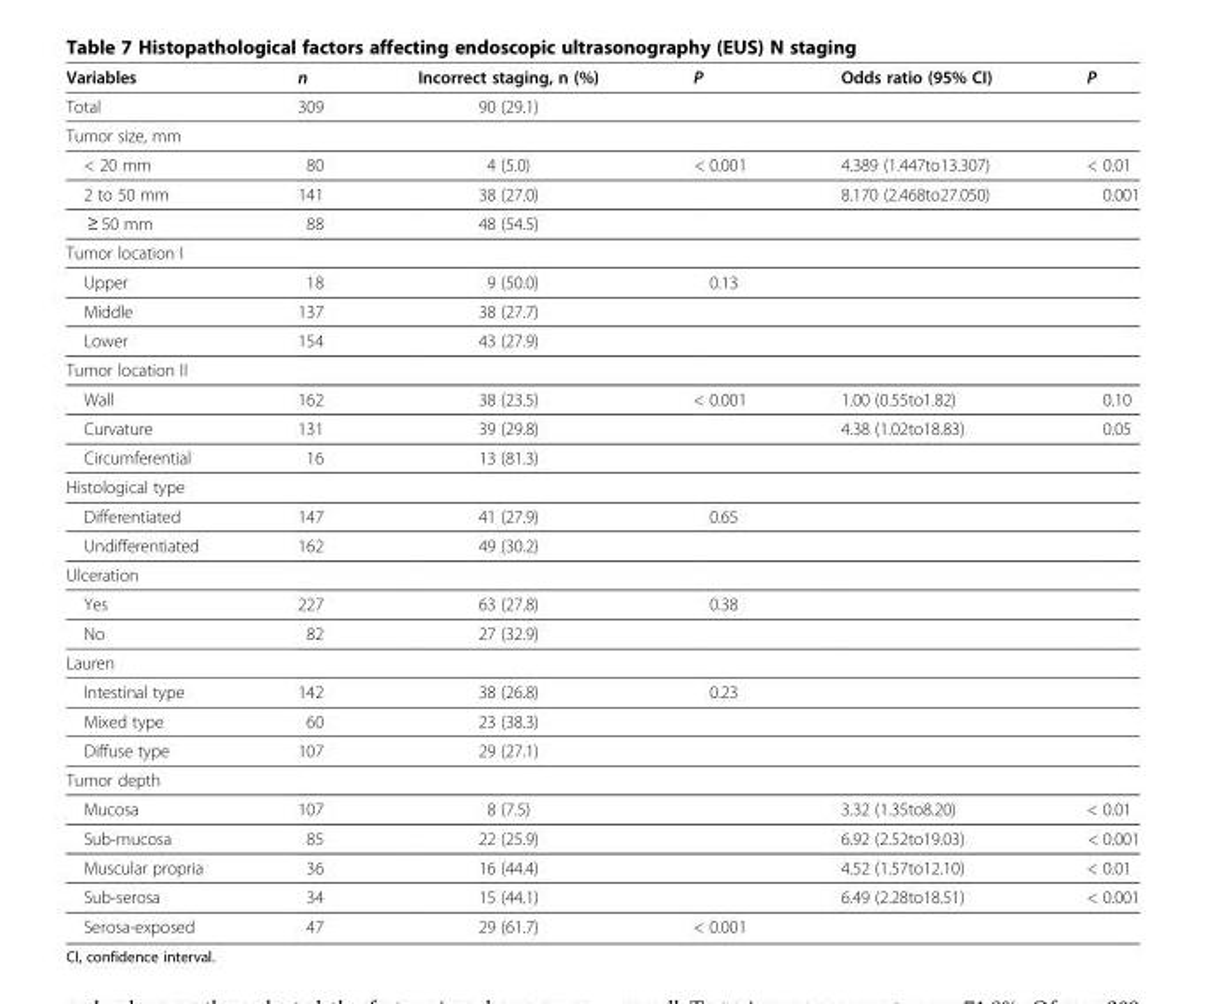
<table><thead><tr><td>Variables</td><td>n</td><td>Incorrect staging, n (%)</td><td>P</td><td>Odds ratio (95% CI)</td><td>P</td></tr></thead><tbody><tr><td>Total</td><td>309</td><td>90 (29.1)</td><td></td><td></td><td></td></tr><tr><td colspan="6">Tumor size, mm</td></tr><tr><td>&lt; 20 mm</td><td>80</td><td>4 (5.0)</td><td>&lt; 0.001</td><td>4.389 (1.447to13.307)</td><td>&lt; 0.01</td></tr><tr><td>2 to 50 mm</td><td>141</td><td>38 (27.0)</td><td></td><td>8.170 (2.468to27.050)</td><td>0.001</td></tr><tr><td>≥ 50 mm</td><td>88</td><td>48 (54.5)</td><td></td><td></td><td></td></tr><tr><td colspan="6">Tumor location I</td></tr><tr><td>Upper</td><td>18</td><td>9 (50.0)</td><td>0.13</td><td></td><td></td></tr><tr><td>Middle</td><td>137</td><td>38 (27.7)</td><td></td><td></td><td></td></tr><tr><td>Lower</td><td>154</td><td>43 (27.9)</td><td></td><td></td><td></td></tr><tr><td colspan="6">Tumor location II</td></tr><tr><td>Wall</td><td>162</td><td>38 (23.5)</td><td>&lt; 0.001</td><td>1.00 (0.55to1.82)</td><td>0.10</td></tr><tr><td>Curvature</td><td>131</td><td>39 (29.8)</td><td></td><td>4.38 (1.02to18.83)</td><td>0.05</td></tr><tr><td>Circumferential</td><td>16</td><td>13 (81.3)</td><td></td><td></td><td></td></tr><tr><td colspan="6">Histological type</td></tr><tr><td>Differentiated</td><td>147</td><td>41 (27.9)</td><td>0.65</td><td></td><td></td></tr><tr><td>Undifferentiated</td><td>162</td><td>49 (30.2)</td><td></td><td></td><td></td></tr><tr><td colspan="6">Ulceration</td></tr><tr><td>Yes</td><td>227</td><td>63 (27.8)</td><td>0.38</td><td></td><td></td></tr><tr><td>No</td><td>82</td><td>27 (32.9)</td><td></td><td></td><td></td></tr><tr><td colspan="6">Lauren</td></tr><tr><td>Intestinal type</td><td>142</td><td>38 (26.8)</td><td>0.23</td><td></td><td></td></tr><tr><td>Mixed type</td><td>60</td><td>23 (38.3)</td><td></td><td></td><td></td></tr><tr><td>Diffuse type</td><td>107</td><td>29 (27.1)</td><td></td><td></td><td></td></tr><tr><td colspan="6">Tumor depth</td></tr><tr><td>Mucosa</td><td>107</td><td>8 (7.5)</td><td></td><td>3.32 (1.35to8.20)</td><td>&lt; 0.01</td></tr><tr><td>Sub-mucosa</td><td>85</td><td>22 (25.9)</td><td></td><td>6.92 (2.52to19.03)</td><td>&lt; 0.001</td></tr><tr><td>Muscular propria</td><td>36</td><td>16 (44.4)</td><td></td><td>4.52 (1.57to12.10)</td><td>&lt; 0.01</td></tr><tr><td>Sub-serosa</td><td>34</td><td>15 (44.1)</td><td></td><td>6.49 (2.28to18.51)</td><td>&lt; 0.001</td></tr><tr><td>Serosa-exposed</td><td>47</td><td>29 (61.7)</td><td>&lt; 0.001</td><td></td><td></td></tr></tbody></table>